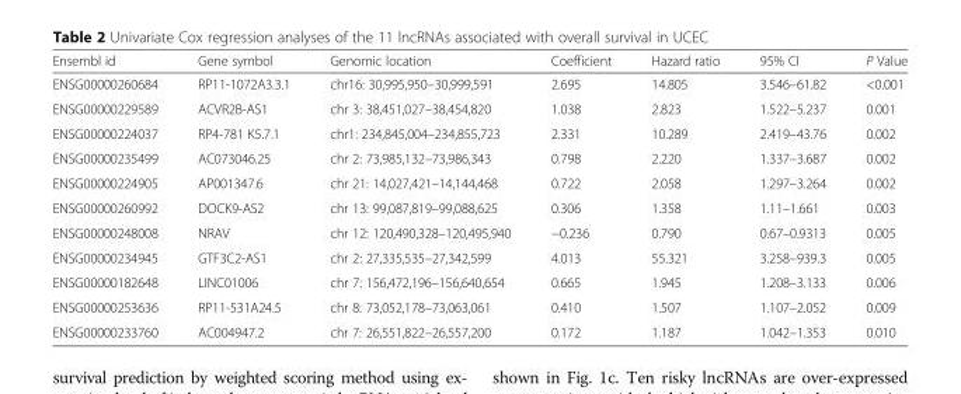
<table><thead><tr><td>Ensembl id</td><td>Gene symbol</td><td>Genomic location</td><td>Coefficient</td><td>Hazard ratio</td><td>95% CI</td><td>P Value</td></tr></thead><tbody><tr><td>ENSG00000260684</td><td>RP11-1072A3.3.1</td><td>chr16: 30,995,950–30,999,591</td><td>2.695</td><td>14.805</td><td>3.546–61.82</td><td>&lt;0.001</td></tr><tr><td>ENSG00000229589</td><td>ACVR2B-AS1</td><td>chr 3: 38,451,027–38,454,820</td><td>1.038</td><td>2.823</td><td>1.522–5.237</td><td>0.001</td></tr><tr><td>ENSG00000224037</td><td>RP4-781 K5.7.1</td><td>chr1: 234,845,004–234,855,723</td><td>2.331</td><td>10.289</td><td>2.419–43.76</td><td>0.002</td></tr><tr><td>ENSG00000235499</td><td>AC073046.25</td><td>chr 2: 73,985,132–73,986,343</td><td>0.798</td><td>2.220</td><td>1.337–3.687</td><td>0.002</td></tr><tr><td>ENSG00000224905</td><td>AP001347.6</td><td>chr 21: 14,027,421–14,144,468</td><td>0.722</td><td>2.058</td><td>1.297–3.264</td><td>0.002</td></tr><tr><td>ENSG00000260992</td><td>DOCK9-AS2</td><td>chr 13: 99,087,819–99,088,625</td><td>0.306</td><td>1.358</td><td>1.11–1.661</td><td>0.003</td></tr><tr><td>ENSG00000248008</td><td>NRAV</td><td>chr 12: 120,490,328–120,495,940</td><td>−0.236</td><td>0.790</td><td>0.67–0.9313</td><td>0.005</td></tr><tr><td>ENSG00000234945</td><td>GTF3C2-AS1</td><td>chr 2: 27,335,535–27,342,599</td><td>4.013</td><td>55.321</td><td>3.258–939.3</td><td>0.005</td></tr><tr><td>ENSG00000182648</td><td>LINC01006</td><td>chr 7: 156,472,196–156,640,654</td><td>0.665</td><td>1.945</td><td>1.208–3.133</td><td>0.006</td></tr><tr><td>ENSG00000253636</td><td>RP11-531A24.5</td><td>chr 8: 73,052,178–73,063,061</td><td>0.410</td><td>1.507</td><td>1.107–2.052</td><td>0.009</td></tr><tr><td>ENSG00000233760</td><td>AC004947.2</td><td>chr 7: 26,551,822–26,557,200</td><td>0.172</td><td>1.187</td><td>1.042–1.353</td><td>0.010</td></tr></tbody></table>